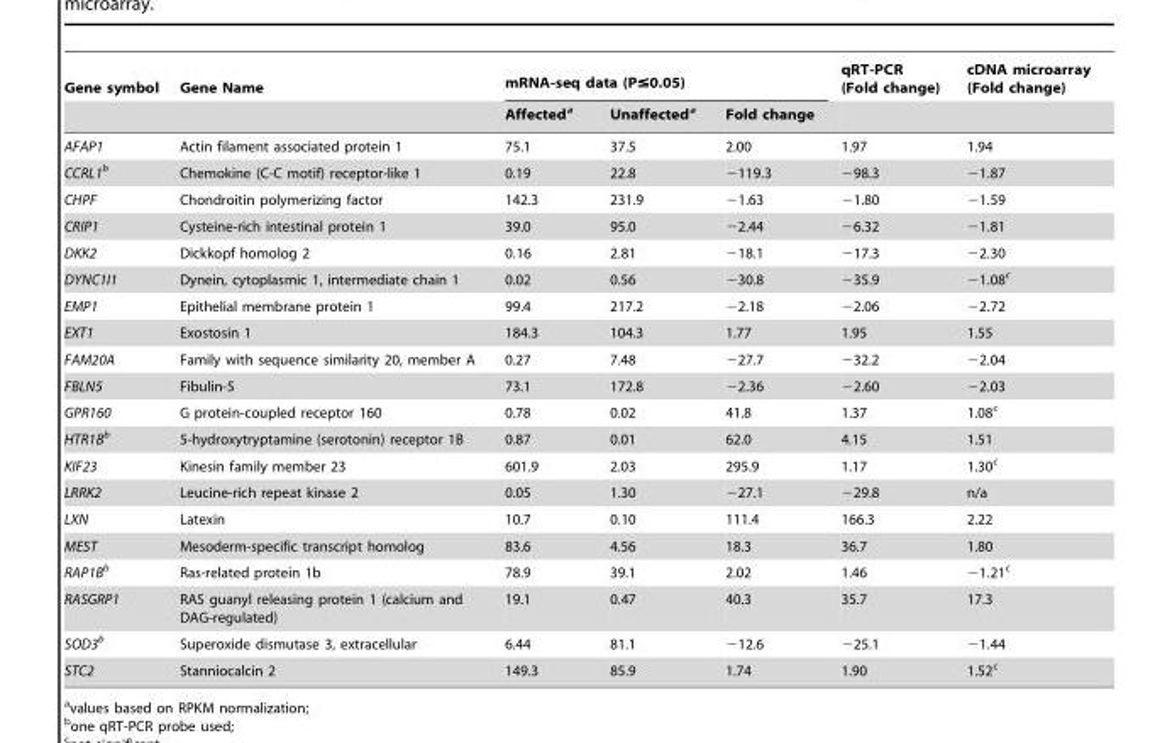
<table><thead><tr><td rowspan="2">Gene symbol</td><td rowspan="2">Gene Name</td><td colspan="3">mRNA-seq data (P≤0.05)</td><td rowspan="2">qRT-PCR (Fold change)</td><td rowspan="2">cDNA microarray (Fold change)</td></tr><tr><td>Affected<sup>a</sup></td><td>Unaffected<sup>a</sup></td><td>Fold change</td></tr></thead><tbody><tr><td>AFAP1</td><td>Actin filament associated protein 1</td><td>75.1</td><td>37.5</td><td>2.00</td><td>1.97</td><td>1.94</td></tr><tr><td>CCRL1b</td><td>Chemokine (C-C motif) receptor-like 1</td><td>0.19</td><td>22.8</td><td>−119.3</td><td>−98.3</td><td>−1.87</td></tr><tr><td>CHPF</td><td>Chondroitin polymerizing factor</td><td>142.3</td><td>231.9</td><td>−1.63</td><td>−1.80</td><td>−1.59</td></tr><tr><td>CRIP1</td><td>Cysteine-rich intestinal protein 1</td><td>39.0</td><td>95.0</td><td>−2.44</td><td>−6.32</td><td>−1.81</td></tr><tr><td>DKK2</td><td>Dickkopf homolog 2</td><td>0.16</td><td>2.81</td><td>−18.1</td><td>−17.3</td><td>−2.30</td></tr><tr><td>DYNC1I1</td><td>Dynein, cytoplasmic 1, intermediate chain 1</td><td>0.02</td><td>0.56</td><td>−30.8</td><td>−35.9</td><td>−1.08<sup>c</sup></td></tr><tr><td>EMP1</td><td>Epithelial membrane protein 1</td><td>99.4</td><td>217.2</td><td>−2.18</td><td>−2.06</td><td>−2.72</td></tr><tr><td>EXT1</td><td>Exostosin 1</td><td>184.3</td><td>104.3</td><td>1.77</td><td>1.95</td><td>1.55</td></tr><tr><td>FAM20A</td><td>Family with sequence similarity 20, member A</td><td>0.27</td><td>7.48</td><td>−27.7</td><td>−32.2</td><td>−2.04</td></tr><tr><td>FBLN5</td><td>Fibulin-5</td><td>73.1</td><td>172.8</td><td>−2.36</td><td>−2.60</td><td>−2.03</td></tr><tr><td>GPR160</td><td>G protein-coupled receptor 160</td><td>0.78</td><td>0.02</td><td>41.8</td><td>1.37</td><td>1.08<sup>c</sup></td></tr><tr><td>HTR1Bb</td><td>5-hydroxytryptamine (serotonin) receptor 1B</td><td>0.87</td><td>0.01</td><td>62.0</td><td>4.15</td><td>1.51</td></tr><tr><td>KIF23</td><td>Kinesin family member 23</td><td>601.9</td><td>2.03</td><td>295.9</td><td>1.17</td><td>1.30<sup>c</sup></td></tr><tr><td>LRRK2</td><td>Leucine-rich repeat kinase 2</td><td>0.05</td><td>1.30</td><td>−27.1</td><td>−29.8</td><td>n/a</td></tr><tr><td>LXN</td><td>Latexin</td><td>10.7</td><td>0.10</td><td>111.4</td><td>166.3</td><td>2.22</td></tr><tr><td>MEST</td><td>Mesoderm-specific transcript homolog</td><td>83.6</td><td>4.56</td><td>18.3</td><td>36.7</td><td>1.80</td></tr><tr><td>RAP1Bb</td><td>Ras-related protein 1b</td><td>78.9</td><td>39.1</td><td>2.02</td><td>1.46</td><td>−1.21<sup>c</sup></td></tr><tr><td>RASGRP1</td><td>RAS guanyl releasing protein 1 (calcium and DAG-regulated)</td><td>19.1</td><td>0.47</td><td>40.3</td><td>35.7</td><td>17.3</td></tr><tr><td>SOD3b</td><td>Superoxide dismutase 3, extracellular</td><td>6.44</td><td>81.1</td><td>−12.6</td><td>−25.1</td><td>−1.44</td></tr><tr><td>STC2</td><td>Stanniocalcin 2</td><td>149.3</td><td>85.9</td><td>1.74</td><td>1.90</td><td>1.52<sup>c</sup></td></tr></tbody></table>